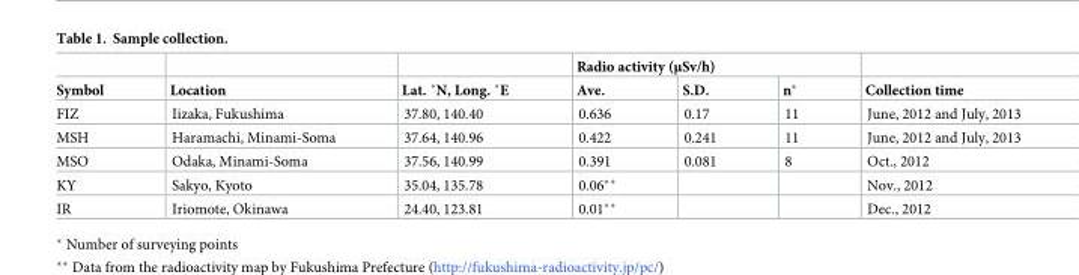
<table><thead><tr><td rowspan="2">Symbol</td><td rowspan="2">Location</td><td rowspan="2">Lat. ˚N, Long. ˚E</td><td colspan="3">Radio activity (μSv/h)</td><td rowspan="2">Collection time</td></tr><tr><td>Ave.</td><td>S.D.</td><td>n*</td></tr></thead><tbody><tr><td>FIZ</td><td>Iizaka, Fukushima</td><td>37.80, 140.40</td><td>0.636</td><td>0.17</td><td>11</td><td>June, 2012 and July, 2013</td></tr><tr><td>MSH</td><td>Haramachi, Minami-Soma</td><td>37.64, 140.96</td><td>0.422</td><td>0.241</td><td>11</td><td>June, 2012 and July, 2013</td></tr><tr><td>MSO</td><td>Odaka, Minami-Soma</td><td>37.56, 140.99</td><td>0.391</td><td>0.081</td><td>8</td><td>Oct., 2012</td></tr><tr><td>KY</td><td>Sakyo, Kyoto</td><td>35.04, 135.78</td><td>0.06**</td><td></td><td></td><td>Nov., 2012</td></tr><tr><td>IR</td><td>Iriomote, Okinawa</td><td>24.40, 123.81</td><td>0.01**</td><td></td><td></td><td>Dec., 2012</td></tr></tbody></table>